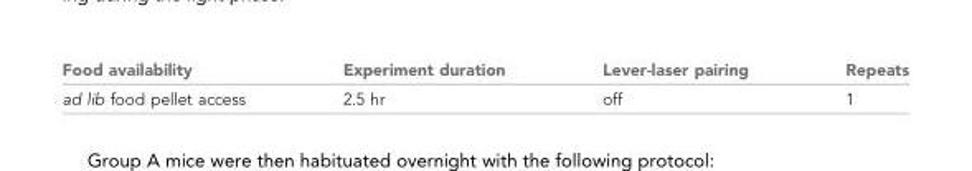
<table><thead><tr><td>Food availability</td><td>Experiment duration</td><td>Lever-laser pairing</td><td>Repeats</td></tr></thead><tbody><tr><td>ad lib food pellet access</td><td>2.5 hr</td><td>off</td><td>1</td></tr></tbody></table>